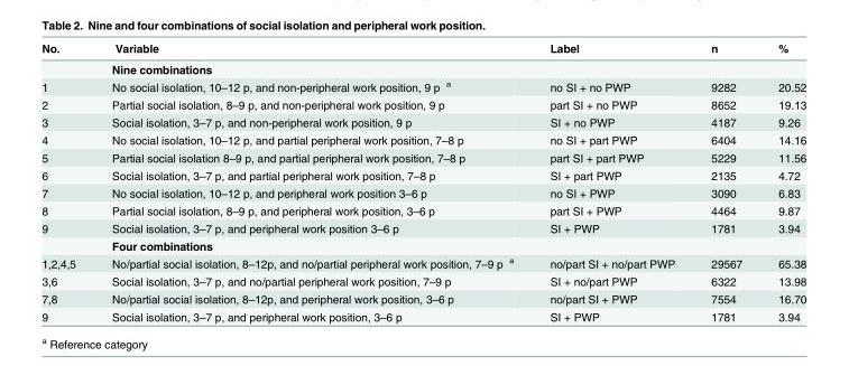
<table><thead><tr><td>No.</td><td>Variable</td><td>Label</td><td>n</td><td>%</td></tr></thead><tbody><tr><td></td><td>Nine combinations</td><td></td><td></td><td></td></tr><tr><td>1</td><td>No social isolation, 10–12 p, and non-peripheral work position, 9 p <sup>a</sup></td><td>no SI + no PWP</td><td>9282</td><td>20.52</td></tr><tr><td>2</td><td>Partial social isolation, 8–9 p, and non-peripheral work position, 9 p</td><td>part SI + no PWP</td><td>8652</td><td>19.13</td></tr><tr><td>3</td><td>Social isolation, 3–7 p, and non-peripheral work position, 9 p</td><td>SI + no PWP</td><td>4187</td><td>9.26</td></tr><tr><td>4</td><td>No social isolation, 10–12 p, and partial peripheral work position, 7–8 p</td><td>no SI + part PWP</td><td>6404</td><td>14.16</td></tr><tr><td>5</td><td>Partial social isolation 8–9 p, and partial peripheral work position, 7–8 p</td><td>part SI + part PWP</td><td>5229</td><td>11.56</td></tr><tr><td>6</td><td>Social isolation, 3–7 p, and partial peripheral work position, 7–8 p</td><td>SI + part PWP</td><td>2135</td><td>4.72</td></tr><tr><td>7</td><td>No social isolation, 10–12 p, and peripheral work position 3–6 p</td><td>no SI + PWP</td><td>3090</td><td>6.83</td></tr><tr><td>8</td><td>Partial social isolation, 8–9 p, and peripheral work position, 3–6 p</td><td>part SI + PWP</td><td>4464</td><td>9.87</td></tr><tr><td rowspan="2">9</td><td>Social isolation, 3–7 p, and peripheral work position 3–6 p</td><td>SI + PWP</td><td>1781</td><td>3.94</td></tr><tr><td>Four combinations</td><td></td><td></td><td></td></tr><tr><td>1,2,4,5</td><td>No/partial social isolation, 8–12p, and no/partial peripheral work position, 7–9 p <sup>a</sup></td><td>no/part SI + no/part PWP</td><td>29567</td><td>65.38</td></tr><tr><td>3,6</td><td>Social isolation, 3–7 p, and no/partial peripheral work position, 7–9 p</td><td>SI + no/part PWP</td><td>6322</td><td>13.98</td></tr><tr><td>7,8</td><td>No/partial social isolation, 8–12p, and peripheral work position, 3–6 p</td><td>no/part SI + PWP</td><td>7554</td><td>16.70</td></tr><tr><td>9</td><td>Social isolation, 3–7 p, and peripheral work position, 3–6 p</td><td>SI + PWP</td><td>1781</td><td>3.94</td></tr></tbody></table>